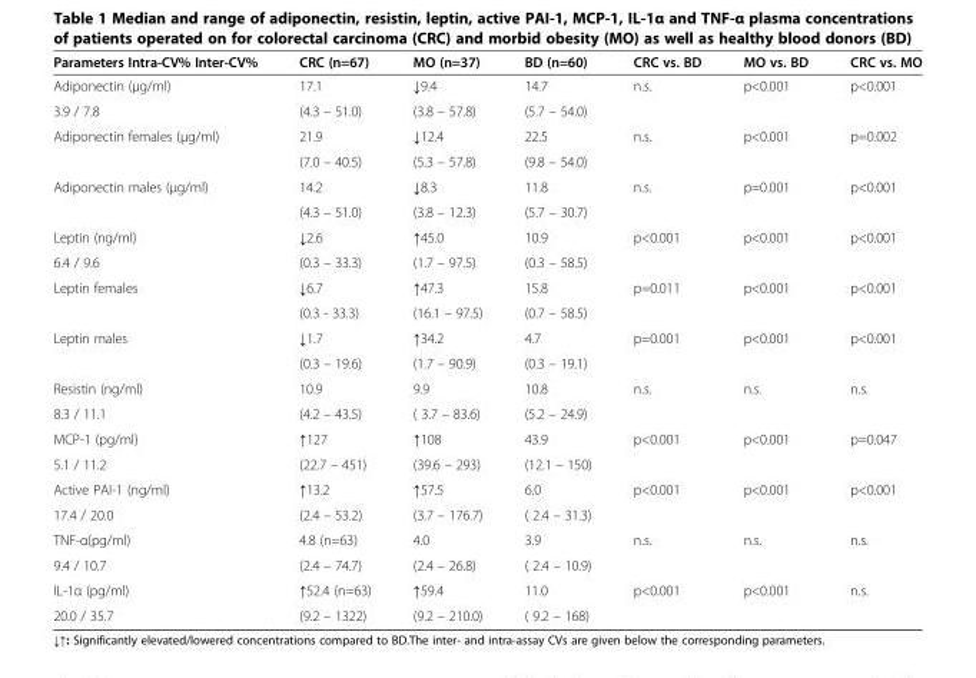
<table><thead><tr><td>Parameters Intra-CV% Inter-CV%</td><td>CRC (n=67)</td><td>MO (n=37)</td><td>BD (n=60)</td><td>CRC vs. BD</td><td>MO vs. BD</td><td>CRC vs. MO</td></tr></thead><tbody><tr><td>Adiponectin (μg/ml)</td><td>17.1</td><td>↓9.4</td><td>14.7</td><td rowspan="2">n.s.</td><td rowspan="2">p&lt;0.001</td><td rowspan="2">p&lt;0.001</td></tr><tr><td>3.9 / 7.8</td><td>(4.3 – 51.0)</td><td>(3.8 – 57.8)</td><td>(5.7 – 54.0)</td></tr><tr><td rowspan="2">Adiponectin females (μg/ml)</td><td>21.9</td><td>↓12.4</td><td>22.5</td><td rowspan="2">n.s.</td><td rowspan="2">p&lt;0.001</td><td rowspan="2">p=0.002</td></tr><tr><td>(7.0 – 40.5)</td><td>(5.3 – 57.8)</td><td>(9.8 – 54.0)</td></tr><tr><td rowspan="2">Adiponectin males (μg/ml)</td><td>14.2</td><td>↓8.3</td><td>11.8</td><td rowspan="2">n.s.</td><td rowspan="2">p=0.001</td><td rowspan="2">p&lt;0.001</td></tr><tr><td>(4.3 – 51.0)</td><td>(3.8 – 12.3)</td><td>(5.7 – 30.7)</td></tr><tr><td>Leptin (ng/ml)</td><td>↓2.6</td><td>↑45.0</td><td>10.9</td><td rowspan="2">p&lt;0.001</td><td rowspan="2">p&lt;0.001</td><td rowspan="2">p&lt;0.001</td></tr><tr><td>6.4 / 9.6</td><td>(0.3 – 33.3)</td><td>(1.7 – 97.5)</td><td>(0.3 – 58.5)</td></tr><tr><td rowspan="2">Leptin females</td><td>↓6.7</td><td>↑47.3</td><td>15.8</td><td rowspan="2">p=0.011</td><td rowspan="2">p&lt;0.001</td><td rowspan="2">p&lt;0.001</td></tr><tr><td>(0.3 - 33.3)</td><td>(16.1 – 97.5)</td><td>(0.7 – 58.5)</td></tr><tr><td rowspan="2">Leptin males</td><td>↓1.7</td><td>↑34.2</td><td>4.7</td><td rowspan="2">p=0.001</td><td rowspan="2">p&lt;0.001</td><td rowspan="2">p&lt;0.001</td></tr><tr><td>(0.3 – 19.6)</td><td>(1.7 – 90.9)</td><td>(0.3 – 19.1)</td></tr><tr><td>Resistin (ng/ml)</td><td>10.9</td><td>9.9</td><td>10.8</td><td rowspan="2">n.s.</td><td rowspan="2">n.s.</td><td rowspan="2">n.s.</td></tr><tr><td>8.3 / 11.1</td><td>(4.2 – 43.5)</td><td>( 3.7 – 83.6)</td><td>(5.2 – 24.9)</td></tr><tr><td>MCP-1 (pg/ml)</td><td>↑127</td><td>↑108</td><td>43.9</td><td rowspan="2">p&lt;0.001</td><td rowspan="2">p&lt;0.001</td><td rowspan="2">p=0.047</td></tr><tr><td>5.1 / 11.2</td><td>(22.7 – 451)</td><td>(39.6 – 293)</td><td>(12.1 – 150)</td></tr><tr><td>Active PAI-1 (ng/ml)</td><td>↑13.2</td><td>↑57.5</td><td>6.0</td><td rowspan="2">p&lt;0.001</td><td rowspan="2">p&lt;0.001</td><td rowspan="2">p&lt;0.001</td></tr><tr><td>17.4 / 20.0</td><td>(2.4 – 53.2)</td><td>(3.7 – 176.7)</td><td>( 2.4 – 31.3)</td></tr><tr><td>TNF-α(pg/ml)</td><td>4.8 (n=63)</td><td>4.0</td><td>3.9</td><td rowspan="2">n.s.</td><td rowspan="2">n.s.</td><td rowspan="2">n.s.</td></tr><tr><td>9.4 / 10.7</td><td>(2.4 – 74.7)</td><td>(2.4 – 26.8)</td><td>( 2.4 – 10.9)</td></tr><tr><td>IL-1α (pg/ml)</td><td>↑52.4 (n=63)</td><td>↑59.4</td><td>11.0</td><td rowspan="2">p&lt;0.001</td><td rowspan="2">p&lt;0.001</td><td rowspan="2">n.s.</td></tr><tr><td>20.0 / 35.7</td><td>(9.2 – 1322)</td><td>(9.2 – 210.0)</td><td>( 9.2 – 168)</td></tr></tbody></table>